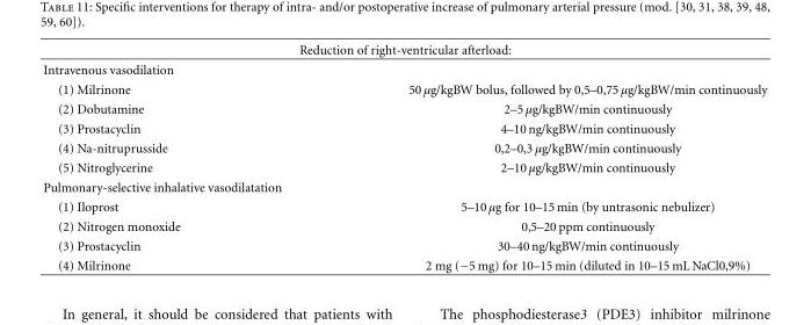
<table><thead><tr><td colspan="2">Reduction of right-ventricular afterload:</td></tr><tr><td>Intravenous vasodilation</td><td></td></tr></thead><tbody><tr><td>(1) Milrinone</td><td>50 µg/kgBW bolus, followed by 0,5–0,75 µg/kgBW/min continuously</td></tr><tr><td>(2) Dobutamine</td><td>2–5 µg/kgBW/min continuously</td></tr><tr><td>(3) Prostacyclin</td><td>4–10 ng/kgBW/min continuously</td></tr><tr><td>(4) Na-nitruprusside</td><td>0,2–0,3 µg/kgBW/min continuously</td></tr><tr><td>(5) Nitroglycerine</td><td>2–10 µg/kgBW/min continuously</td></tr><tr><td colspan="2">Pulmonary-selective inhalative vasodilatation</td></tr><tr><td>(1) Iloprost</td><td>5–10 µg for 10–15 min (by untrasonic nebulizer)</td></tr><tr><td>(2) Nitrogen monoxide</td><td>0,5–20 ppm continuously</td></tr><tr><td>(3) Prostacyclin</td><td>30–40 ng/kgBW/min continuously</td></tr><tr><td>(4) Milrinone</td><td>2 mg (−5 mg) for 10–15 min (diluted in 10–15 mL NaCl0,9%)</td></tr></tbody></table>